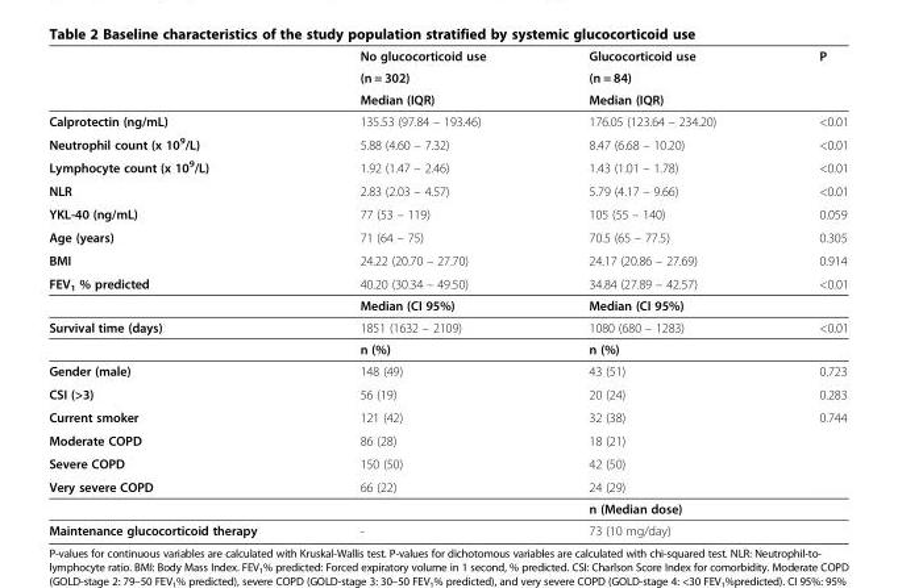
<table><thead><tr><td rowspan="3"></td><td rowspan="3">No glucocorticoid use (n = 302) Median (IQR)</td><td rowspan="3">Glucocorticoid use (n = 84) Median (IQR)</td><td rowspan="3">P</td></tr><tr></tr><tr></tr></thead><tbody><tr><td>Calprotectin (ng/mL)</td><td>135.53 (97.84 – 193.46)</td><td>176.05 (123.64 – 234.20)</td><td>&lt;0.01</td></tr><tr><td>Neutrophil count (x 10<sup>9</sup>/L)</td><td>5.88 (4.60 – 7.32)</td><td>8.47 (6.68 – 10.20)</td><td>&lt;0.01</td></tr><tr><td>Lymphocyte count (x 10<sup>9</sup>/L)</td><td>1.92 (1.47 – 2.46)</td><td>1.43 (1.01 – 1.78)</td><td>&lt;0.01</td></tr><tr><td>NLR</td><td>2.83 (2.03 – 4.57)</td><td>5.79 (4.17 – 9.66)</td><td>&lt;0.01</td></tr><tr><td>YKL-40 (ng/mL)</td><td>77 (53 – 119)</td><td>105 (55 – 140)</td><td>0.059</td></tr><tr><td>Age (years)</td><td>71 (64 – 75)</td><td>70.5 (65 – 77.5)</td><td>0.305</td></tr><tr><td>BMI</td><td>24.22 (20.70 – 27.70)</td><td>24.17 (20.86 – 27.69)</td><td>0.914</td></tr><tr><td rowspan="2">FEV<sub>1</sub> % predicted</td><td>40.20 (30.34 – 49.50)</td><td>34.84 (27.89 – 42.57)</td><td>&lt;0.01</td></tr><tr><td>Median (CI 95%)</td><td>Median (CI 95%)</td><td></td></tr><tr><td rowspan="2">Survival time (days)</td><td>1851 (1632 – 2109)</td><td>1080 (680 – 1283)</td><td>&lt;0.01</td></tr><tr><td>n (%)</td><td>n (%)</td><td></td></tr><tr><td>Gender (male)</td><td>148 (49)</td><td>43 (51)</td><td>0.723</td></tr><tr><td>CSI (&gt;3)</td><td>56 (19)</td><td>20 (24)</td><td>0.283</td></tr><tr><td>Current smoker</td><td>121 (42)</td><td>32 (38)</td><td>0.744</td></tr><tr><td>Moderate COPD</td><td>86 (28)</td><td>18 (21)</td><td></td></tr><tr><td>Severe COPD</td><td>150 (50)</td><td>42 (50)</td><td></td></tr><tr><td rowspan="2">Very severe COPD</td><td>66 (22)</td><td>24 (29)</td><td></td></tr><tr><td></td><td>n (Median dose)</td><td></td></tr><tr><td>Maintenance glucocorticoid therapy</td><td>-</td><td>73 (10 mg/day)</td><td></td></tr></tbody></table>